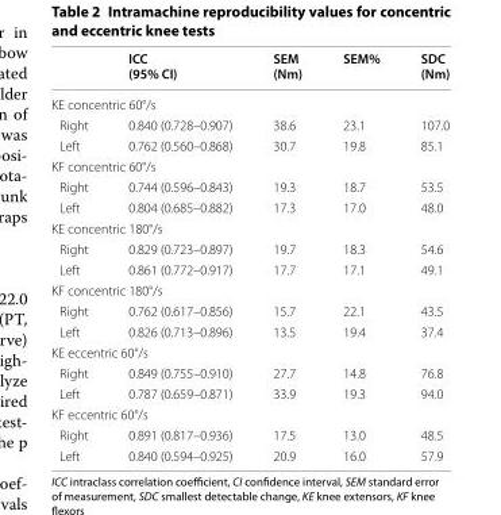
<table><thead><tr><td></td><td>ICC (95% CI)</td><td>SEM (Nm)</td><td>SEM%</td><td>SDC (Nm)</td></tr></thead><tbody><tr><td colspan="5">KE concentric 60°/s</td></tr><tr><td>Right</td><td>0.840 (0.728–0.907)</td><td>38.6</td><td>23.1</td><td>107.0</td></tr><tr><td>Left</td><td>0.762 (0.560–0.868)</td><td>30.7</td><td>19.8</td><td>85.1</td></tr><tr><td colspan="5">KF concentric 60°/s</td></tr><tr><td>Right</td><td>0.744 (0.596–0.843)</td><td>19.3</td><td>18.7</td><td>53.5</td></tr><tr><td>Left</td><td>0.804 (0.685–0.882)</td><td>17.3</td><td>17.0</td><td>48.0</td></tr><tr><td colspan="5">KE concentric 180°/s</td></tr><tr><td>Right</td><td>0.829 (0.723–0.897)</td><td>19.7</td><td>18.3</td><td>54.6</td></tr><tr><td>Left</td><td>0.861 (0.772–0.917)</td><td>17.7</td><td>17.1</td><td>49.1</td></tr><tr><td colspan="5">KF concentric 180°/s</td></tr><tr><td>Right</td><td>0.762 (0.617–0.856)</td><td>15.7</td><td>22.1</td><td>43.5</td></tr><tr><td>Left</td><td>0.826 (0.713–0.896)</td><td>13.5</td><td>19.4</td><td>37.4</td></tr><tr><td colspan="5">KE eccentric 60°/s</td></tr><tr><td>Right</td><td>0.849 (0.755–0.910)</td><td>27.7</td><td>14.8</td><td>76.8</td></tr><tr><td>Left</td><td>0.787 (0.659–0.871)</td><td>33.9</td><td>19.3</td><td>94.0</td></tr><tr><td colspan="5">KF eccentric 60°/s</td></tr><tr><td>Right</td><td>0.891 (0.817–0.936)</td><td>17.5</td><td>13.0</td><td>48.5</td></tr><tr><td>Left</td><td>0.840 (0.594–0.925)</td><td>20.9</td><td>16.0</td><td>57.9</td></tr></tbody></table>